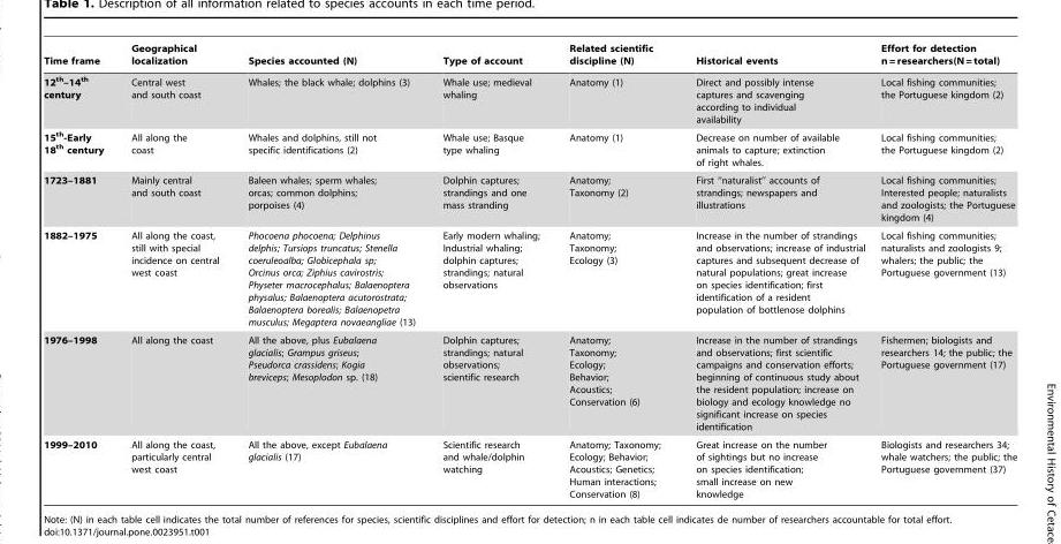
<table><thead><tr><td>Time frame</td><td>Geographical localization</td><td>Species accounted (N)</td><td>Type of account</td><td>Related scientific discipline (N)</td><td>Historical events</td><td>Effort for detection n = researchers(N = total)</td></tr></thead><tbody><tr><td>12<sup>th</sup>–14<sup>th</sup> century</td><td>Central west and south coast</td><td>Whales; the black whale; dolphins (3)</td><td>Whale use; medieval whaling</td><td>Anatomy (1)</td><td>Direct and possibly intense captures and scavenging according to individual availability</td><td>Local fishing communities; the Portuguese kingdom (2)</td></tr><tr><td>15<sup>th</sup>-Early 18<sup>th</sup> century</td><td>All along the coast</td><td>Whales and dolphins, still not specific identifications (2)</td><td>Whale use; Basque type whaling</td><td>Anatomy (1)</td><td>Decrease on number of available animals to capture; extinction of right whales.</td><td>Local fishing communities; the Portuguese kingdom (2)</td></tr><tr><td>1723–1881</td><td>Mainly central and south coast</td><td>Baleen whales; sperm whales; orcas; common dolphins; porpoises (4)</td><td>Dolphin captures; strandings and one mass stranding</td><td>Anatomy; Taxonomy (2)</td><td>First ‘‘naturalist’’ accounts of strandings; newspapers and illustrations</td><td>Local fishing communities; Interested people; naturalists and zoologists; the Portuguese kingdom (4)</td></tr><tr><td>1882–1975</td><td>All along the coast, still with special incidence on central west coast</td><td>Phocoena phocoena; Delphinus delphis; Tursiops truncatus; Stenella coeruleoalba; Globicephala sp; Orcinus orca; Ziphius cavirostris; Physeter macrocephalus; Balaenoptera physalus; Balaenoptera acutorostrata; Balaenoptera borealis; Balaenopetra musculus; Megaptera novaeangliae (13)</td><td>Early modern whaling; Industrial whaling; dolphin captures; strandings; natural observations</td><td>Anatomy; Taxonomy; Ecology (3)</td><td>Increase in the number of strandings and observations; increase of industrial captures and subsequent decrease of natural populations; great increase on species identification; first identification of a resident population of bottlenose dolphins</td><td>Local fishing communities; naturalists and zoologists 9; whalers; the public; the Portuguese government (13)</td></tr><tr><td>1976–1998</td><td>All along the coast</td><td>All the above, plus Eubalaena glacialis; Grampus griseus; Pseudorca crassidens; Kogia breviceps; Mesoplodon sp. (18)</td><td>Dolphin captures; strandings; natural observations; scientific research</td><td>Anatomy; Taxonomy; Ecology; Behavior; Acoustics; Conservation (6)</td><td>Increase in the number of strandings and observations; first scientific campaigns and conservation efforts; beginning of continuous study about the resident population; increase on biology and ecology knowledge no significant increase on species identification</td><td>Fishermen; biologists and researchers 14; the public; the Portuguese government (17)</td></tr><tr><td>1999–2010</td><td>All along the coast, particularly central west coast</td><td>All the above, except Eubalaena glacialis (17)</td><td>Scientific research and whale/dolphin watching</td><td>Anatomy; Taxonomy; Ecology; Behavior; Acoustics; Genetics; Human interactions; Conservation (8)</td><td>Great increase on the number of sightings but no increase on species identification; small increase on new knowledge</td><td>Biologists and researchers 34; whale watchers; the public; the Portuguese government (37)</td></tr></tbody></table>